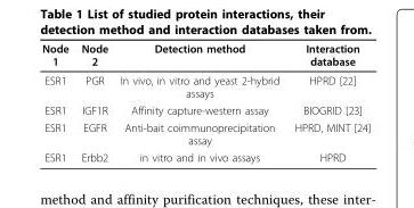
<table><thead><tr><td>Node 1</td><td>Node 2</td><td>Detection method</td><td>Interaction database</td></tr></thead><tbody><tr><td>ESR1</td><td>PGR</td><td>In vivo, in vitro and yeast 2-hybrid assays</td><td>HPRD [22]</td></tr><tr><td>ESR1</td><td>IGF1R</td><td>Affinity capture-western assay</td><td>BIOGRID [23]</td></tr><tr><td>ESR1</td><td>EGFR</td><td>Anti-bait coimmunoprecipitation assay</td><td>HPRD, MINT [24]</td></tr><tr><td>ESR1</td><td>Erbb2</td><td>in vitro and in vivo assays</td><td>HPRD</td></tr></tbody></table>